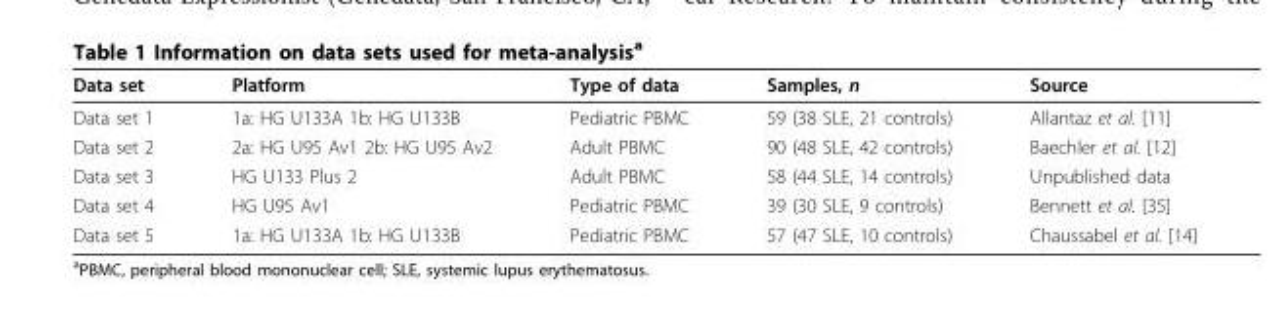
<table><thead><tr><td>Data set</td><td>Platform</td><td>Type of data</td><td>Samples, n</td><td>Source</td></tr></thead><tbody><tr><td>Data set 1</td><td>1a: HG U133A 1b: HG U133B</td><td>Pediatric PBMC</td><td>59 (38 SLE, 21 controls)</td><td>Allantaz et al. [11]</td></tr><tr><td>Data set 2</td><td>2a: HG U95 Av1 2b: HG U95 Av2</td><td>Adult PBMC</td><td>90 (48 SLE, 42 controls)</td><td>Baechler et al. [12]</td></tr><tr><td>Data set 3</td><td>HG U133 Plus 2</td><td>Adult PBMC</td><td>58 (44 SLE, 14 controls)</td><td>Unpublished data</td></tr><tr><td>Data set 4</td><td>HG U95 Av1</td><td>Pediatric PBMC</td><td>39 (30 SLE, 9 controls)</td><td>Bennett et al. [35]</td></tr><tr><td>Data set 5</td><td>1a: HG U133A 1b: HG U133B</td><td>Pediatric PBMC</td><td>57 (47 SLE, 10 controls)</td><td>Chaussabel et al. [14]</td></tr></tbody></table>